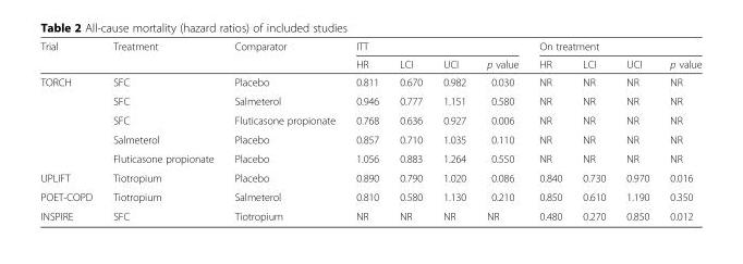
<table><thead><tr><td rowspan="2">Trial</td><td rowspan="2">Treatment</td><td rowspan="2">Comparator</td><td colspan="4">ITT</td><td colspan="4">On treatment</td></tr><tr><td>HR</td><td>LCI</td><td>UCI</td><td>p value</td><td>HR</td><td>LCI</td><td>UCI</td><td>p value</td></tr></thead><tbody><tr><td rowspan="5">TORCH</td><td>SFC</td><td>Placebo</td><td>0.811</td><td>0.670</td><td>0.982</td><td>0.030</td><td>NR</td><td>NR</td><td>NR</td><td>NR</td></tr><tr><td>SFC</td><td>Salmeterol</td><td>0.946</td><td>0.777</td><td>1.151</td><td>0.580</td><td>NR</td><td>NR</td><td>NR</td><td>NR</td></tr><tr><td>SFC</td><td>Fluticasone propionate</td><td>0.768</td><td>0.636</td><td>0.927</td><td>0.006</td><td>NR</td><td>NR</td><td>NR</td><td>NR</td></tr><tr><td>Salmeterol</td><td>Placebo</td><td>0.857</td><td>0.710</td><td>1.035</td><td>0.110</td><td>NR</td><td>NR</td><td>NR</td><td>NR</td></tr><tr><td>Fluticasone propionate</td><td>Placebo</td><td>1.056</td><td>0.883</td><td>1.264</td><td>0.550</td><td>NR</td><td>NR</td><td>NR</td><td>NR</td></tr><tr><td>UPLIFT</td><td>Tiotropium</td><td>Placebo</td><td>0.890</td><td>0.790</td><td>1.020</td><td>0.086</td><td>0.840</td><td>0.730</td><td>0.970</td><td>0.016</td></tr><tr><td>POET-COPD</td><td>Tiotropium</td><td>Salmeterol</td><td>0.810</td><td>0.580</td><td>1.130</td><td>0.210</td><td>0.850</td><td>0.610</td><td>1.190</td><td>0.350</td></tr><tr><td>INSPIRE</td><td>SFC</td><td>Tiotropium</td><td>NR</td><td>NR</td><td>NR</td><td>NR</td><td>0.480</td><td>0.270</td><td>0.850</td><td>0.012</td></tr></tbody></table>